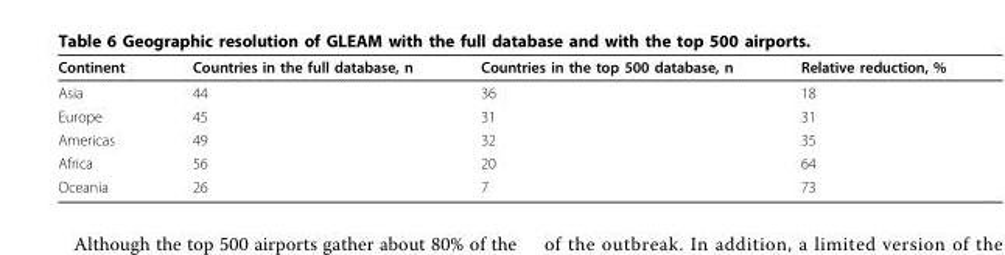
<table><thead><tr><td>Continent</td><td>Countries in the full database, n</td><td>Countries in the top 500 database, n</td><td>Relative reduction, %</td></tr></thead><tbody><tr><td>Asia</td><td>44</td><td>36</td><td>18</td></tr><tr><td>Europe</td><td>45</td><td>31</td><td>31</td></tr><tr><td>Americas</td><td>49</td><td>32</td><td>35</td></tr><tr><td>Africa</td><td>56</td><td>20</td><td>64</td></tr><tr><td>Oceania</td><td>26</td><td>7</td><td>73</td></tr></tbody></table>